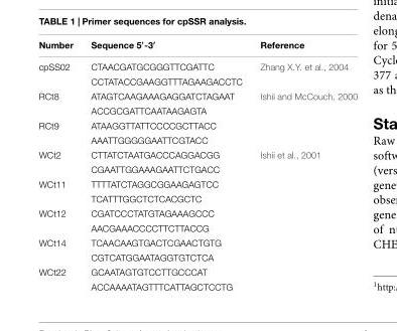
<table><thead><tr><td>Number</td><td>Sequence 5′-3′</td><td>Reference</td></tr></thead><tbody><tr><td rowspan="2">cpSS02</td><td>CTAACGATGCGGGTTCGATTC</td><td>Zhang X.Y. et al., 2004</td></tr><tr><td>CCTATACCGAAGGTTTAGAAGACCTC</td><td></td></tr><tr><td rowspan="2">RCt8</td><td>ATAGTCAAGAAAGAGGATCTAGAAT</td><td>Ishii and McCouch, 2000</td></tr><tr><td>ACCGCGATTCAATAAGAGTA</td><td></td></tr><tr><td rowspan="2">RCt9</td><td>ATAAGGTTATTCCCCGCTTACC</td><td></td></tr><tr><td>AAATTGGGGGAATTCGTACC</td><td></td></tr><tr><td rowspan="2">WCt2</td><td>CTTATCTAATGACCCAGGACGG</td><td>Ishii et al., 2001</td></tr><tr><td>CGAATTGGAAAGAATTCTGACC</td><td></td></tr><tr><td rowspan="2">WCt11</td><td>TTTTATCTAGGCGGAAGAGTCC</td><td></td></tr><tr><td>TCATTTGGCTCTCACGCTC</td><td></td></tr><tr><td rowspan="2">WCt12</td><td>CGATCCCTATGTAGAAAGCCC</td><td></td></tr><tr><td>AACGAAACCCCTTCTTACCG</td><td></td></tr><tr><td rowspan="2">WCt14</td><td>TCAACAAGTGACTCGAACTGTG</td><td></td></tr><tr><td>CGTCATGGAATAGGTGTCTCA</td><td></td></tr><tr><td rowspan="2">WCt22</td><td>GCAATAGTGTCCTTGCCCAT</td><td></td></tr><tr><td>ACCAAAATAGTTTCATTAGCTCCTG</td><td></td></tr></tbody></table>